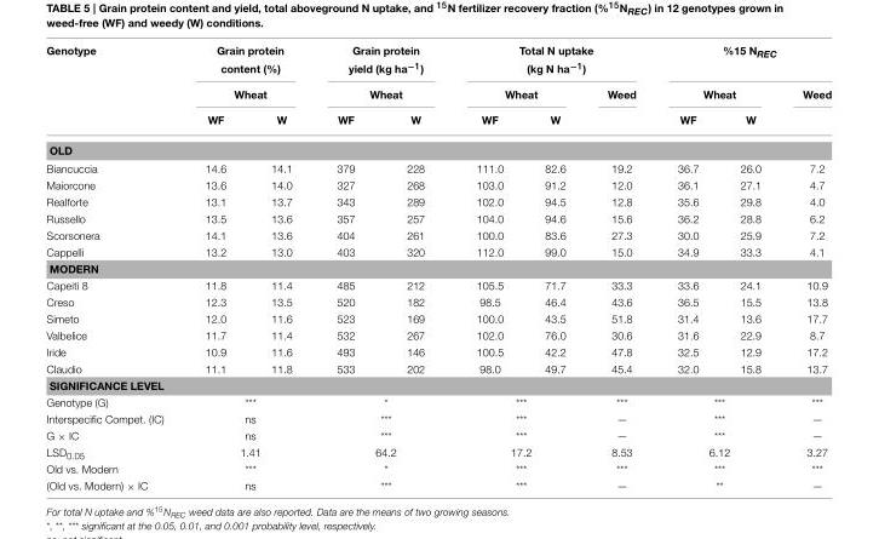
<table><thead><tr><td rowspan="3">Genotype</td><td rowspan="2" colspan="2">Grain protein content (%) Wheat</td><td rowspan="2" colspan="2">Grain protein yield (kg ha<sup>−1</sup>) Wheat</td><td colspan="3">Total N uptake (kg N ha<sup>−1</sup>)</td><td colspan="3">%15 N<sub>REC</sub></td></tr><tr><td colspan="2">Wheat</td><td rowspan="2">Weed</td><td colspan="2">Wheat</td><td rowspan="2">Weed</td></tr><tr><td>WF</td><td>W</td><td>WF</td><td>W</td><td>WF</td><td>W</td><td>WF</td><td>W</td></tr></thead><tbody><tr><td colspan="11">OLD</td></tr><tr><td>Biancuccia</td><td>14.6</td><td>14.1</td><td>379</td><td>228</td><td>111.0</td><td>82.6</td><td>19.2</td><td>36.7</td><td>26.0</td><td>7.2</td></tr><tr><td>Maiorcone</td><td>13.6</td><td>14.0</td><td>327</td><td>268</td><td>103.0</td><td>91.2</td><td>12.0</td><td>36.1</td><td>27.1</td><td>4.7</td></tr><tr><td>Realforte</td><td>13.1</td><td>13.7</td><td>343</td><td>289</td><td>102.0</td><td>94.5</td><td>12.8</td><td>35.6</td><td>29.8</td><td>4.0</td></tr><tr><td>Russello</td><td>13.5</td><td>13.6</td><td>357</td><td>257</td><td>104.0</td><td>94.6</td><td>15.6</td><td>36.2</td><td>28.8</td><td>6.2</td></tr><tr><td>Scorsonera</td><td>14.1</td><td>13.6</td><td>404</td><td>261</td><td>100.0</td><td>83.6</td><td>27.3</td><td>30.0</td><td>25.9</td><td>7.2</td></tr><tr><td>Cappelli</td><td>13.2</td><td>13.0</td><td>403</td><td>320</td><td>112.0</td><td>99.0</td><td>15.0</td><td>34.9</td><td>33.3</td><td>4.1</td></tr><tr><td colspan="11">MODERN</td></tr><tr><td>Capeiti 8</td><td>11.8</td><td>11.4</td><td>485</td><td>212</td><td>105.5</td><td>71.7</td><td>33.3</td><td>33.6</td><td>24.1</td><td>10.9</td></tr><tr><td>Creso</td><td>12.3</td><td>13.5</td><td>520</td><td>182</td><td>98.5</td><td>46.4</td><td>43.6</td><td>36.5</td><td>15.5</td><td>13.8</td></tr><tr><td>Simeto</td><td>12.0</td><td>11.6</td><td>523</td><td>169</td><td>100.0</td><td>43.5</td><td>51.8</td><td>31.4</td><td>13.6</td><td>17.7</td></tr><tr><td>Valbelice</td><td>11.7</td><td>11.4</td><td>532</td><td>267</td><td>102.0</td><td>76.0</td><td>30.6</td><td>31.6</td><td>22.9</td><td>8.7</td></tr><tr><td>Iride</td><td>10.9</td><td>11.6</td><td>493</td><td>146</td><td>100.5</td><td>42.2</td><td>47.8</td><td>32.5</td><td>12.9</td><td>17.2</td></tr><tr><td>Claudio</td><td>11.1</td><td>11.8</td><td>533</td><td>202</td><td>98.0</td><td>49.7</td><td>45.4</td><td>32.0</td><td>15.8</td><td>13.7</td></tr><tr><td colspan="11">SIGNIFICANCE LEVEL</td></tr><tr><td>Genotype (G)</td><td colspan="2">***</td><td colspan="2">*</td><td colspan="2">***</td><td>***</td><td colspan="2">***</td><td>***</td></tr><tr><td>Interspecific Compet. (IC)</td><td colspan="2">ns</td><td colspan="2">***</td><td colspan="2">***</td><td>—</td><td colspan="2">***</td><td>—</td></tr><tr><td>G × IC</td><td colspan="2">ns</td><td colspan="2">***</td><td colspan="2">***</td><td>—</td><td colspan="2">***</td><td>—</td></tr><tr><td>LSD<sub>0.05</sub></td><td colspan="2">1.41</td><td colspan="2">64.2</td><td colspan="2">17.2</td><td>8.53</td><td colspan="2">6.12</td><td>3.27</td></tr><tr><td>Old vs. Modern</td><td colspan="2">***</td><td colspan="2">*</td><td colspan="2">***</td><td>***</td><td colspan="2">***</td><td>***</td></tr><tr><td>(Old vs. Modern) × IC</td><td colspan="2">ns</td><td colspan="2">***</td><td colspan="2">***</td><td>—</td><td colspan="2">**</td><td>—</td></tr></tbody></table>